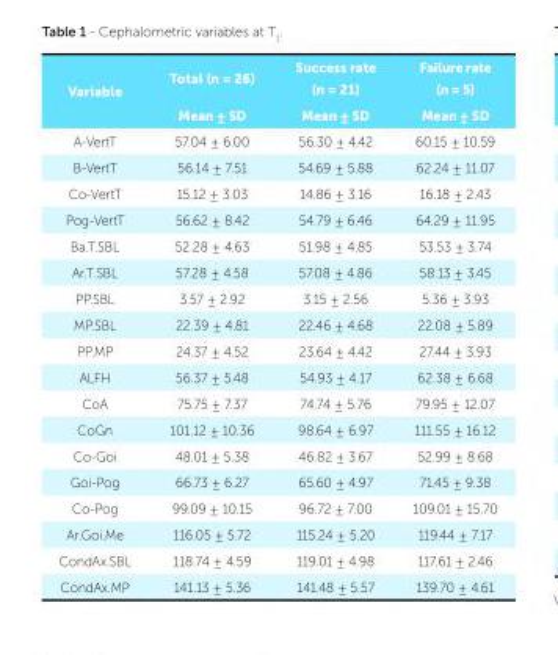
<table><thead><tr><td rowspan="2">Variable</td><td rowspan="2">Total (n = 26) Mean ± SD</td><td rowspan="2">Success rate (n = 21) Mean ± SD</td><td rowspan="2">Failure rate (n = 5) Mean ± SD</td></tr><tr></tr></thead><tbody><tr><td>A-VertT</td><td>57.04 ± 6.00</td><td>56.30 ± 4.42</td><td>60.15 ± 10.59</td></tr><tr><td>B-VertT</td><td>56.14 ± 7.51</td><td>54.69 ± 5.88</td><td>62.24 ± 11.07</td></tr><tr><td>Co-VertT</td><td>15.12 ± 3.03</td><td>14.86 ± 3.16</td><td>16.18 ± 2.43</td></tr><tr><td>Pog-VertT</td><td>56.62 ± 8.42</td><td>54.79 ± 6.46</td><td>64.29 ± 11.95</td></tr><tr><td>Ba.T.SBL</td><td>52.28 ± 4.63</td><td>51.98 ± 4.85</td><td>53.53 ± 3.74</td></tr><tr><td>Ar.T.SBL</td><td>57.28 ± 4.58</td><td>57.08 ± 4.86</td><td>58.13 ± 3.45</td></tr><tr><td>PP.SBL</td><td>3.57 ± 2.92</td><td>3.15 ± 2.56</td><td>5.36 ± 3.93</td></tr><tr><td>MP.SBL</td><td>22.39 ± 4.81</td><td>22.46 ± 4.68</td><td>22.08 ± 5.89</td></tr><tr><td>PP.MP</td><td>24.37 ± 4.52</td><td>23.64 ± 4.42</td><td>27.44 ± 3.93</td></tr><tr><td>ALFH</td><td>56.37 ± 5.48</td><td>54.93 ± 4.17</td><td>62.38 ± 6.68</td></tr><tr><td>CoA</td><td>75.75 ± 7.37</td><td>74.74 ± 5.76</td><td>79.95 ± 12.07</td></tr><tr><td>CoGn</td><td>101.12 ± 10.36</td><td>98.64 ± 6.97</td><td>111.55 ± 16.12</td></tr><tr><td>Co-Goi</td><td>48.01 ± 5.38</td><td>46.82 ± 3.67</td><td>52.99 ± 8.68</td></tr><tr><td>Goi-Pog</td><td>66.73 ± 6.27</td><td>65.60 ± 4.97</td><td>71.45 ± 9.38</td></tr><tr><td>Co-Pog</td><td>99.09 ± 10.15</td><td>96.72 ± 7.00</td><td>109.01 ± 15.70</td></tr><tr><td>Ar.Goi.Me</td><td>116.05 ± 5.72</td><td>115.24 ± 5.20</td><td>119.44 ± 7.17</td></tr><tr><td>CondAx.SBL</td><td>118.74 ± 4.59</td><td>119.01 ± 4.98</td><td>117.61 ± 2.46</td></tr><tr><td>CondAx.MP</td><td>141.13 ± 5.36</td><td>141.48 ± 5.57</td><td>139.70 ± 4.61</td></tr></tbody></table>